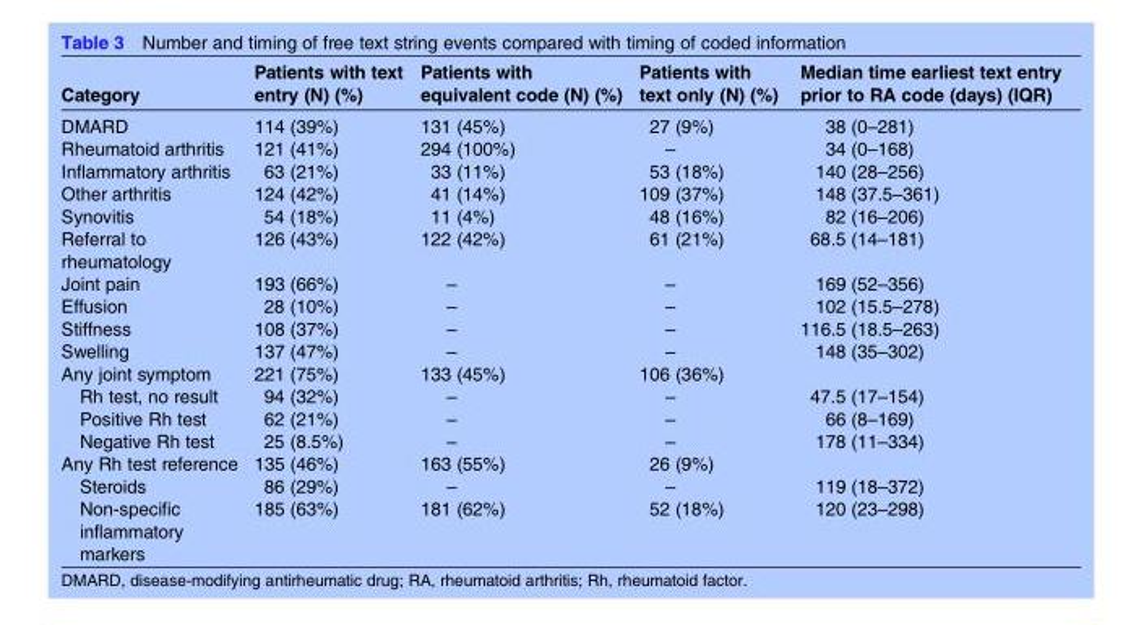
<table><thead><tr><td>Category</td><td>Patients with text entry (N) (%)</td><td>Patients with equivalent code (N) (%)</td><td>Patients with text only (N) (%)</td><td>Median time earliest text entry prior to RA code (days) (IQR)</td></tr></thead><tbody><tr><td>DMARD</td><td>114 (39%)</td><td>131 (45%)</td><td>27 (9%)</td><td>38 (0–281)</td></tr><tr><td>Rheumatoid arthritis</td><td>121 (41%)</td><td>294 (100%)</td><td>–</td><td>34 (0–168)</td></tr><tr><td>Inflammatory arthritis</td><td>63 (21%)</td><td>33 (11%)</td><td>53 (18%)</td><td>140 (28–256)</td></tr><tr><td>Other arthritis</td><td>124 (42%)</td><td>41 (14%)</td><td>109 (37%)</td><td>148 (37.5–361)</td></tr><tr><td>Synovitis</td><td>54 (18%)</td><td>11 (4%)</td><td>48 (16%)</td><td>82 (16–206)</td></tr><tr><td>Referral to rheumatology</td><td>126 (43%)</td><td>122 (42%)</td><td>61 (21%)</td><td>68.5 (14–181)</td></tr><tr><td>Joint pain</td><td>193 (66%)</td><td>–</td><td>–</td><td>169 (52–356)</td></tr><tr><td>Effusion</td><td>28 (10%)</td><td>–</td><td>–</td><td>102 (15.5–278)</td></tr><tr><td>Stiffness</td><td>108 (37%)</td><td>–</td><td>–</td><td>116.5 (18.5–263)</td></tr><tr><td>Swelling</td><td>137 (47%)</td><td>–</td><td>–</td><td>148 (35–302)</td></tr><tr><td>Any joint symptom</td><td>221 (75%)</td><td>133 (45%)</td><td>106 (36%)</td><td></td></tr><tr><td>Rh test, no result</td><td>94 (32%)</td><td>–</td><td>–</td><td>47.5 (17–154)</td></tr><tr><td>Positive Rh test</td><td>62 (21%)</td><td>–</td><td>–</td><td>66 (8–169)</td></tr><tr><td>Negative Rh test</td><td>25 (8.5%)</td><td>–</td><td>–</td><td>178 (11–334)</td></tr><tr><td>Any Rh test reference</td><td>135 (46%)</td><td>163 (55%)</td><td>26 (9%)</td><td></td></tr><tr><td>Steroids</td><td>86 (29%)</td><td>–</td><td>–</td><td>119 (18–372)</td></tr><tr><td>Non-specific inflammatory markers</td><td>185 (63%)</td><td>181 (62%)</td><td>52 (18%)</td><td>120 (23–298)</td></tr></tbody></table>